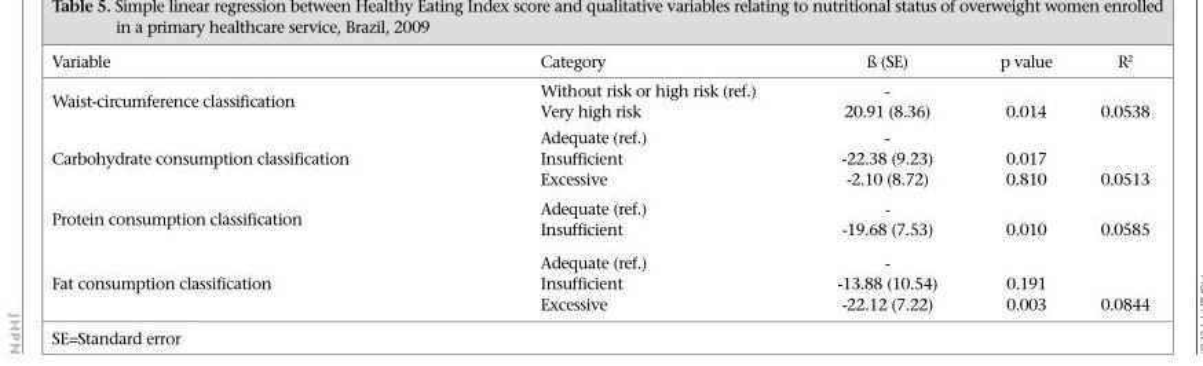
<table><thead><tr><td>Variable</td><td>Category</td><td>ß (SE)</td><td>p value</td><td>R<sup>2</sup></td></tr></thead><tbody><tr><td>Waist-circumference classification</td><td>Without risk or high risk (ref.) Very high risk</td><td>- 20.91 (8.36)</td><td>0.014</td><td>0.0538</td></tr><tr><td>Carbohydrate consumption classification</td><td>Adequate (ref.) Insufficient Excessive</td><td>- -22.38 (9.23) -2.10 (8.72)</td><td>0.017 0.810</td><td>0.0513</td></tr><tr><td>Protein consumption classification</td><td>Adequate (ref.) Insufficient</td><td>- -19.68 (7.53)</td><td>0.010</td><td>0.0585</td></tr><tr><td>Fat consumption classification</td><td>Adequate (ref.) Insufficient Excessive</td><td>- -13.88 (10.54) -22.12 (7.22)</td><td>0.191 0.003</td><td>0.0844</td></tr></tbody></table>